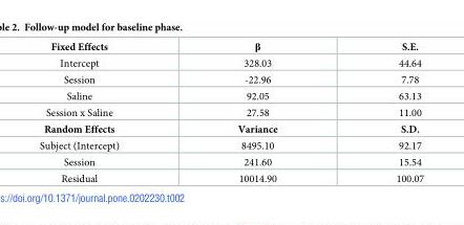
<table><tbody><tr><td>Fixed Effects</td><td>β</td><td>S.E.</td></tr><tr><td>Intercept</td><td>328.03</td><td>44.64</td></tr><tr><td>Session</td><td>-22.96</td><td>7.78</td></tr><tr><td>Saline</td><td>92.05</td><td>63.13</td></tr><tr><td>Session x Saline</td><td>27.58</td><td>11.00</td></tr><tr><td>Random Effects</td><td>Variance</td><td>S.D.</td></tr><tr><td>Subject (Intercept)</td><td>8495.10</td><td>92.17</td></tr><tr><td>Session</td><td>241.60</td><td>15.54</td></tr><tr><td>Residual</td><td>10014.90</td><td>100.07</td></tr></tbody></table>